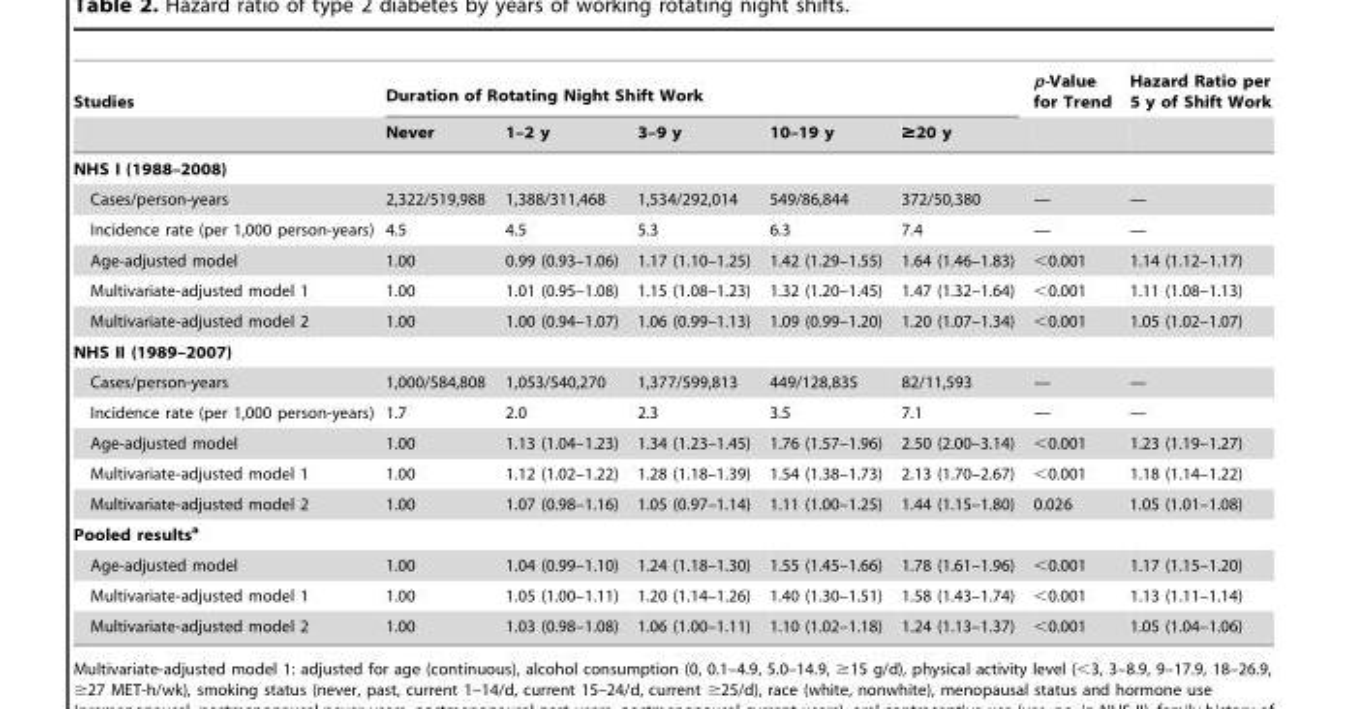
<table><thead><tr><td rowspan="2">Studies</td><td colspan="5">Duration of Rotating Night Shift Work</td><td rowspan="2">p-Value for Trend</td><td rowspan="2">Hazard Ratio per 5 y of Shift Work</td></tr><tr><td>Never</td><td>1–2 y</td><td>3–9 y</td><td>10–19 y</td><td>≥20 y</td></tr></thead><tbody><tr><td colspan="8">NHS I (1988–2008)</td></tr><tr><td>Cases/person-years</td><td>2,322/519,988</td><td>1,388/311,468</td><td>1,534/292,014</td><td>549/86,844</td><td>372/50,380</td><td>—</td><td>—</td></tr><tr><td>Incidence rate (per 1,000 person-years)</td><td>4.5</td><td>4.5</td><td>5.3</td><td>6.3</td><td>7.4</td><td>—</td><td>—</td></tr><tr><td>Age-adjusted model</td><td>1.00</td><td>0.99 (0.93–1.06)</td><td>1.17 (1.10–1.25)</td><td>1.42 (1.29–1.55)</td><td>1.64 (1.46–1.83)</td><td>&lt;0.001</td><td>1.14 (1.12–1.17)</td></tr><tr><td>Multivariate-adjusted model 1</td><td>1.00</td><td>1.01 (0.95–1.08)</td><td>1.15 (1.08–1.23)</td><td>1.32 (1.20–1.45)</td><td>1.47 (1.32–1.64)</td><td>&lt;0.001</td><td>1.11 (1.08–1.13)</td></tr><tr><td>Multivariate-adjusted model 2</td><td>1.00</td><td>1.00 (0.94–1.07)</td><td>1.06 (0.99–1.13)</td><td>1.09 (0.99–1.20)</td><td>1.20 (1.07–1.34)</td><td>&lt;0.001</td><td>1.05 (1.02–1.07)</td></tr><tr><td colspan="8">NHS II (1989–2007)</td></tr><tr><td>Cases/person-years</td><td>1,000/584,808</td><td>1,053/540,270</td><td>1,377/599,813</td><td>449/128,835</td><td>82/11,593</td><td>—</td><td>—</td></tr><tr><td>Incidence rate (per 1,000 person-years)</td><td>1.7</td><td>2.0</td><td>2.3</td><td>3.5</td><td>7.1</td><td>—</td><td>—</td></tr><tr><td>Age-adjusted model</td><td>1.00</td><td>1.13 (1.04–1.23)</td><td>1.34 (1.23–1.45)</td><td>1.76 (1.57–1.96)</td><td>2.50 (2.00–3.14)</td><td>&lt;0.001</td><td>1.23 (1.19–1.27)</td></tr><tr><td>Multivariate-adjusted model 1</td><td>1.00</td><td>1.12 (1.02–1.22)</td><td>1.28 (1.18–1.39)</td><td>1.54 (1.38–1.73)</td><td>2.13 (1.70–2.67)</td><td>&lt;0.001</td><td>1.18 (1.14–1.22)</td></tr><tr><td>Multivariate-adjusted model 2</td><td>1.00</td><td>1.07 (0.98–1.16)</td><td>1.05 (0.97–1.14)</td><td>1.11 (1.00–1.25)</td><td>1.44 (1.15–1.80)</td><td>0.026</td><td>1.05 (1.01–1.08)</td></tr><tr><td colspan="8">Pooled resultsa</td></tr><tr><td>Age-adjusted model</td><td>1.00</td><td>1.04 (0.99–1.10)</td><td>1.24 (1.18–1.30)</td><td>1.55 (1.45–1.66)</td><td>1.78 (1.61–1.96)</td><td>&lt;0.001</td><td>1.17 (1.15–1.20)</td></tr><tr><td>Multivariate-adjusted model 1</td><td>1.00</td><td>1.05 (1.00–1.11)</td><td>1.20 (1.14–1.26)</td><td>1.40 (1.30–1.51)</td><td>1.58 (1.43–1.74)</td><td>&lt;0.001</td><td>1.13 (1.11–1.14)</td></tr><tr><td>Multivariate-adjusted model 2</td><td>1.00</td><td>1.03 (0.98–1.08)</td><td>1.06 (1.00–1.11)</td><td>1.10 (1.02–1.18)</td><td>1.24 (1.13–1.37)</td><td>&lt;0.001</td><td>1.05 (1.04–1.06)</td></tr></tbody></table>